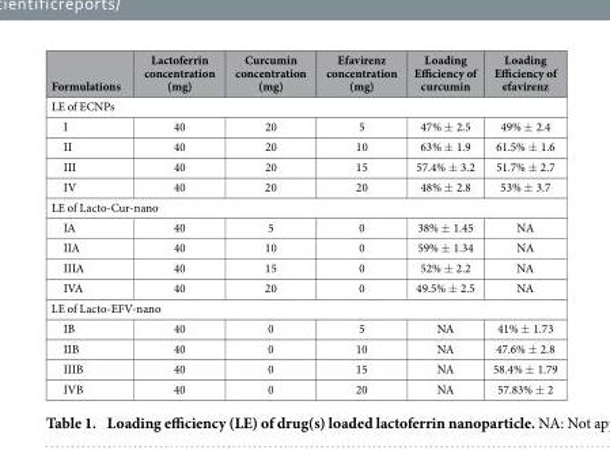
<table><thead><tr><td>Formulations</td><td>Lactoferrin concentration (mg)</td><td>Curcumin concentration (mg)</td><td>Efavirenz concentration (mg)</td><td>Loading Efficiency of curcumin</td><td>Loading Efficiency of efavirenz</td></tr></thead><tbody><tr><td colspan="6">LE of ECNPs</td></tr><tr><td>I</td><td>40</td><td>20</td><td>5</td><td>47% ± 2.5</td><td>49% ± 2.4</td></tr><tr><td>II</td><td>40</td><td>20</td><td>10</td><td>63% ± 1.9</td><td>61.5% ± 1.6</td></tr><tr><td>III</td><td>40</td><td>20</td><td>15</td><td>57.4% ± 3.2</td><td>51.7% ± 2.7</td></tr><tr><td>IV</td><td>40</td><td>20</td><td>20</td><td>48% ± 2.8</td><td>53% ± 3.7</td></tr><tr><td colspan="6">LE of Lacto-Cur-nano</td></tr><tr><td>IA</td><td>40</td><td>5</td><td>0</td><td>38% ± 1.45</td><td>NA</td></tr><tr><td>IIA</td><td>40</td><td>10</td><td>0</td><td>59% ± 1.34</td><td>NA</td></tr><tr><td>IIIA</td><td>40</td><td>15</td><td>0</td><td>52% ± 2.2</td><td>NA</td></tr><tr><td>IVA</td><td>40</td><td>20</td><td>0</td><td>49.5% ± 2.5</td><td>NA</td></tr><tr><td colspan="6">LE of Lacto-EFV-nano</td></tr><tr><td>IB</td><td>40</td><td>0</td><td>5</td><td>NA</td><td>41% ± 1.73</td></tr><tr><td>IIB</td><td>40</td><td>0</td><td>10</td><td>NA</td><td>47.6% ± 2.8</td></tr><tr><td>IIIB</td><td>40</td><td>0</td><td>15</td><td>NA</td><td>58.4% ± 1.79</td></tr><tr><td>IVB</td><td>40</td><td>0</td><td>20</td><td>NA</td><td>57.83% ± 2</td></tr></tbody></table>